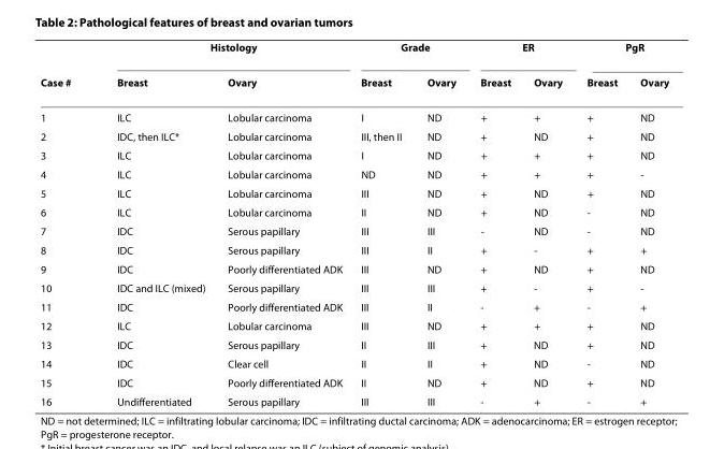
<table><thead><tr><td rowspan="2">Case #</td><td colspan="2">Histology</td><td colspan="2">Grade</td><td colspan="2">ER</td><td colspan="2">PgR</td></tr><tr><td>Breast</td><td>Ovary</td><td>Breast</td><td>Ovary</td><td>Breast</td><td>Ovary</td><td>Breast</td><td>Ovary</td></tr></thead><tbody><tr><td>1</td><td>ILC</td><td>Lobular carcinoma</td><td>I</td><td>ND</td><td>+</td><td>+</td><td>+</td><td>ND</td></tr><tr><td>2</td><td>IDC, then ILC*</td><td>Lobular carcinoma</td><td>III, then II</td><td>ND</td><td>+</td><td>ND</td><td>+</td><td>ND</td></tr><tr><td>3</td><td>ILC</td><td>Lobular carcinoma</td><td>I</td><td>ND</td><td>+</td><td>+</td><td>+</td><td>ND</td></tr><tr><td>4</td><td>ILC</td><td>Lobular carcinoma</td><td>ND</td><td>ND</td><td>+</td><td>+</td><td>+</td><td>-</td></tr><tr><td>5</td><td>ILC</td><td>Lobular carcinoma</td><td>III</td><td>ND</td><td>+</td><td>ND</td><td>+</td><td>ND</td></tr><tr><td>6</td><td>ILC</td><td>Lobular carcinoma</td><td>II</td><td>ND</td><td>+</td><td>ND</td><td>-</td><td>ND</td></tr><tr><td>7</td><td>IDC</td><td>Serous papillary</td><td>III</td><td>III</td><td>-</td><td>ND</td><td>-</td><td>ND</td></tr><tr><td>8</td><td>IDC</td><td>Serous papillary</td><td>III</td><td>II</td><td>+</td><td>-</td><td>+</td><td>+</td></tr><tr><td>9</td><td>IDC</td><td>Poorly differentiated ADK</td><td>III</td><td>ND</td><td>+</td><td>ND</td><td>+</td><td>ND</td></tr><tr><td>10</td><td>IDC and ILC (mixed)</td><td>Serous papillary</td><td>III</td><td>III</td><td>+</td><td>-</td><td>+</td><td>-</td></tr><tr><td>11</td><td>IDC</td><td>Poorly differentiated ADK</td><td>III</td><td>II</td><td>-</td><td>+</td><td>-</td><td>+</td></tr><tr><td>12</td><td>ILC</td><td>Lobular carcinoma</td><td>III</td><td>ND</td><td>+</td><td>+</td><td>+</td><td>ND</td></tr><tr><td>13</td><td>IDC</td><td>Serous papillary</td><td>II</td><td>III</td><td>+</td><td>ND</td><td>+</td><td>ND</td></tr><tr><td>14</td><td>IDC</td><td>Clear cell</td><td>II</td><td>II</td><td>+</td><td>ND</td><td>-</td><td>ND</td></tr><tr><td>15</td><td>IDC</td><td>Poorly differentiated ADK</td><td>II</td><td>ND</td><td>+</td><td>ND</td><td>+</td><td>ND</td></tr><tr><td>16</td><td>Undifferentiated</td><td>Serous papillary</td><td>III</td><td>III</td><td>-</td><td>+</td><td>-</td><td>+</td></tr></tbody></table>